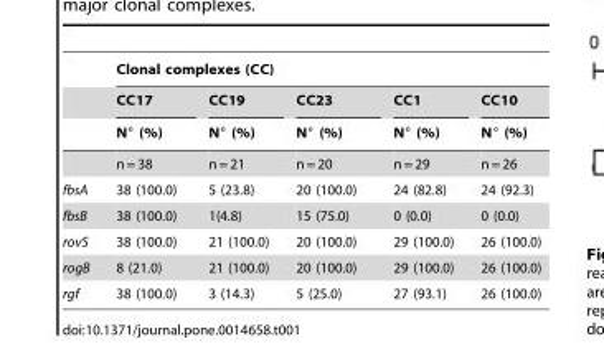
<table><thead><tr><td rowspan="3"></td><td colspan="5">Clonal complexes (CC)</td></tr><tr><td rowspan="2">CC17 N° (%)</td><td rowspan="2">CC19 N° (%)</td><td rowspan="2">CC23 N° (%)</td><td rowspan="2">CC1 N° (%)</td><td rowspan="2">CC10 N° (%)</td></tr><tr></tr></thead><tbody><tr><td></td><td>n = 38</td><td>n = 21</td><td>n = 20</td><td>n = 29</td><td>n = 26</td></tr><tr><td>fbsA</td><td>38 (100.0)</td><td>5 (23.8)</td><td>20 (100.0)</td><td>24 (82.8)</td><td>24 (92.3)</td></tr><tr><td>fbsB</td><td>38 (100.0)</td><td>1(4.8)</td><td>15 (75.0)</td><td>0 (0.0)</td><td>0 (0.0)</td></tr><tr><td>rovS</td><td>38 (100.0)</td><td>21 (100.0)</td><td>20 (100.0)</td><td>29 (100.0)</td><td>26 (100.0)</td></tr><tr><td>rogB</td><td>8 (21.0)</td><td>21 (100.0)</td><td>20 (100.0)</td><td>29 (100.0)</td><td>26 (100.0)</td></tr><tr><td>rgf</td><td>38 (100.0)</td><td>3 (14.3)</td><td>5 (25.0)</td><td>27 (93.1)</td><td>26 (100.0)</td></tr></tbody></table>